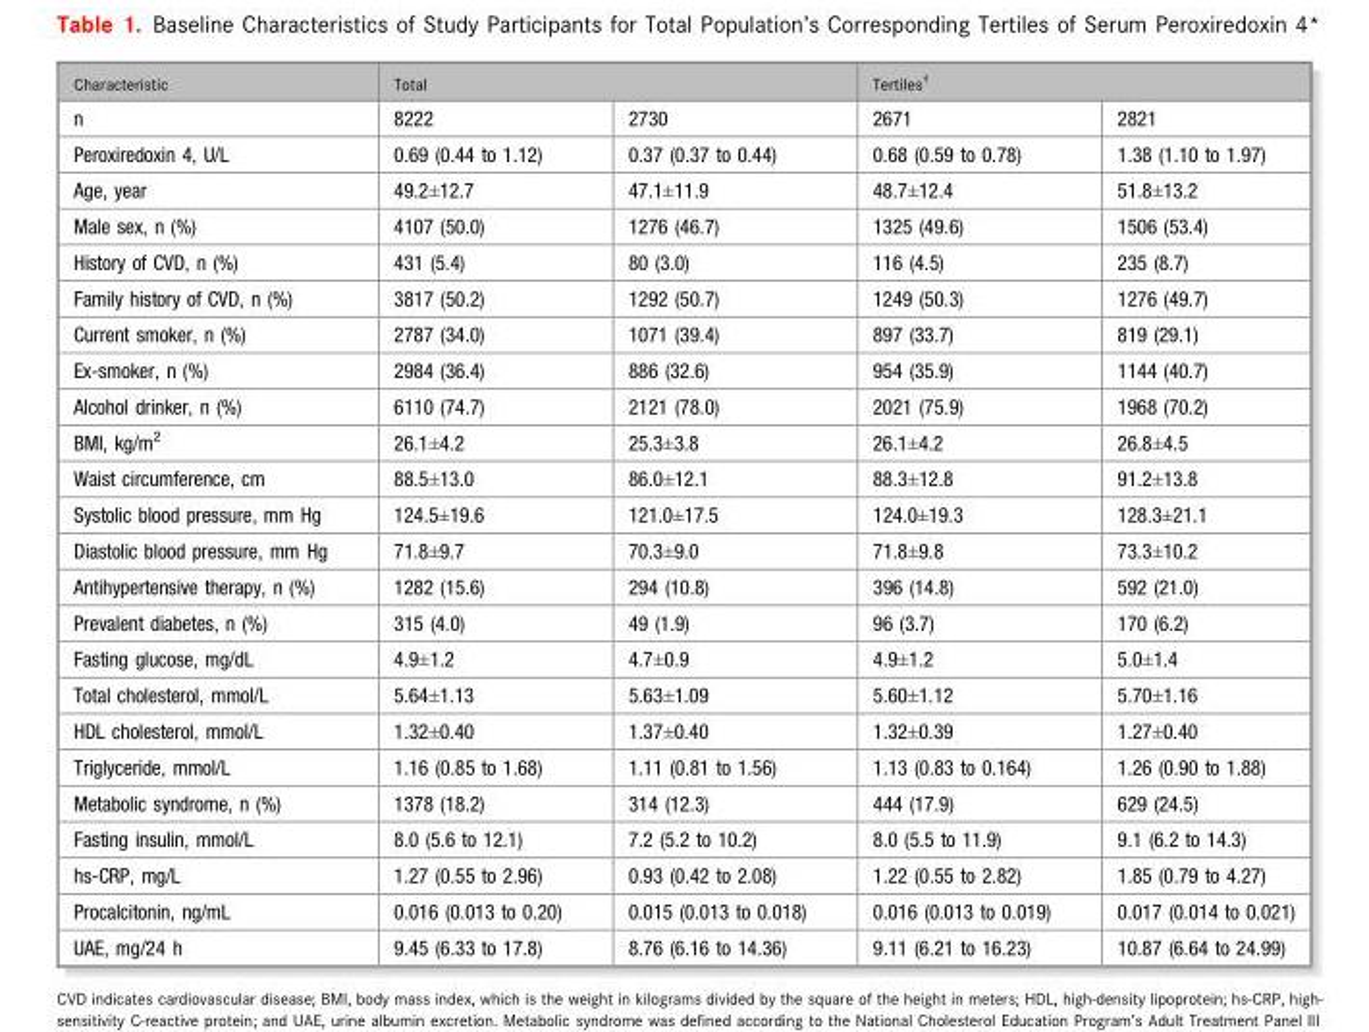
<table><thead><tr><td rowspan="2">Characteristic n</td><td colspan="2">Total</td><td colspan="2">Tertiles†</td></tr><tr><td>8222</td><td>2730</td><td>2671</td><td>2821</td></tr></thead><tbody><tr><td>Peroxiredoxin 4, U/L</td><td>0.69 (0.44 to 1.12)</td><td>0.37 (0.37 to 0.44)</td><td>0.68 (0.59 to 0.78)</td><td>1.38 (1.10 to 1.97)</td></tr><tr><td>Age, year</td><td>49.2±12.7</td><td>47.1±11.9</td><td>48.7±12.4</td><td>51.8±13.2</td></tr><tr><td>Male sex, n (%)</td><td>4107 (50.0)</td><td>1276 (46.7)</td><td>1325 (49.6)</td><td>1506 (53.4)</td></tr><tr><td>History of CVD, n (%)</td><td>431 (5.4)</td><td>80 (3.0)</td><td>116 (4.5)</td><td>235 (8.7)</td></tr><tr><td>Family history of CVD, n (%)</td><td>3817 (50.2)</td><td>1292 (50.7)</td><td>1249 (50.3)</td><td>1276 (49.7)</td></tr><tr><td>Current smoker, n (%)</td><td>2787 (34.0)</td><td>1071 (39.4)</td><td>897 (33.7)</td><td>819 (29.1)</td></tr><tr><td>Ex-smoker, n (%)</td><td>2984 (36.4)</td><td>886 (32.6)</td><td>954 (35.9)</td><td>1144 (40.7)</td></tr><tr><td>Alcohol drinker, n (%)</td><td>6110 (74.7)</td><td>2121 (78.0)</td><td>2021 (75.9)</td><td>1968 (70.2)</td></tr><tr><td>BMI, kg/m<sup>2</sup></td><td>26.1±4.2</td><td>25.3±3.8</td><td>26.1±4.2</td><td>26.8±4.5</td></tr><tr><td>Waist circumference, cm</td><td>88.5±13.0</td><td>86.0±12.1</td><td>88.3±12.8</td><td>91.2±13.8</td></tr><tr><td>Systolic blood pressure, mm Hg</td><td>124.5±19.6</td><td>121.0±17.5</td><td>124.0±19.3</td><td>128.3±21.1</td></tr><tr><td>Diastolic blood pressure, mm Hg</td><td>71.8±9.7</td><td>70.3±9.0</td><td>71.8±9.8</td><td>73.3±10.2</td></tr><tr><td>Antihypertensive therapy, n (%)</td><td>1282 (15.6)</td><td>294 (10.8)</td><td>396 (14.8)</td><td>592 (21.0)</td></tr><tr><td>Prevalent diabetes, n (%)</td><td>315 (4.0)</td><td>49 (1.9)</td><td>96 (3.7)</td><td>170 (6.2)</td></tr><tr><td>Fasting glucose, mg/dL</td><td>4.9±1.2</td><td>4.7±0.9</td><td>4.9±1.2</td><td>5.0±1.4</td></tr><tr><td>Total cholesterol, mmol/L</td><td>5.64±1.13</td><td>5.63±1.09</td><td>5.60±1.12</td><td>5.70±1.16</td></tr><tr><td>HDL cholesterol, mmol/L</td><td>1.32±0.40</td><td>1.37±0.40</td><td>1.32±0.39</td><td>1.27±0.40</td></tr><tr><td>Triglyceride, mmol/L</td><td>1.16 (0.85 to 1.68)</td><td>1.11 (0.81 to 1.56)</td><td>1.13 (0.83 to 0.164)</td><td>1.26 (0.90 to 1.88)</td></tr><tr><td>Metabolic syndrome, n (%)</td><td>1378 (18.2)</td><td>314 (12.3)</td><td>444 (17.9)</td><td>629 (24.5)</td></tr><tr><td>Fasting insulin, mmol/L</td><td>8.0 (5.6 to 12.1)</td><td>7.2 (5.2 to 10.2)</td><td>8.0 (5.5 to 11.9)</td><td>9.1 (6.2 to 14.3)</td></tr><tr><td>hs-CRP, mg/L</td><td>1.27 (0.55 to 2.96)</td><td>0.93 (0.42 to 2.08)</td><td>1.22 (0.55 to 2.82)</td><td>1.85 (0.79 to 4.27)</td></tr><tr><td>Procalcitonin, ng/mL</td><td>0.016 (0.013 to 0.20)</td><td>0.015 (0.013 to 0.018)</td><td>0.016 (0.013 to 0.019)</td><td>0.017 (0.014 to 0.021)</td></tr><tr><td>UAE, mg/24 h</td><td>9.45 (6.33 to 17.8)</td><td>8.76 (6.16 to 14.36)</td><td>9.11 (6.21 to 16.23)</td><td>10.87 (6.64 to 24.99)</td></tr></tbody></table>